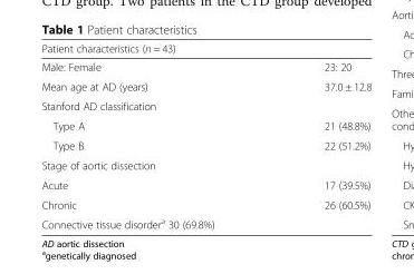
<table><thead><tr><td colspan="2">Patient characteristics (n = 43)</td></tr><tr><td>Male: Female</td><td>23: 20</td></tr></thead><tbody><tr><td>Mean age at AD (years)</td><td>37.0 ± 12.8</td></tr><tr><td colspan="2">Stanford AD classification</td></tr><tr><td>Type A</td><td>21 (48.8%)</td></tr><tr><td>Type B</td><td>22 (51.2%)</td></tr><tr><td colspan="2">Stage of aortic dissection</td></tr><tr><td>Acute</td><td>17 (39.5%)</td></tr><tr><td>Chronic</td><td>26 (60.5%)</td></tr><tr><td>Connective tissue disorder<sup>a</sup> 30 (69.8%)</td><td></td></tr></tbody></table>